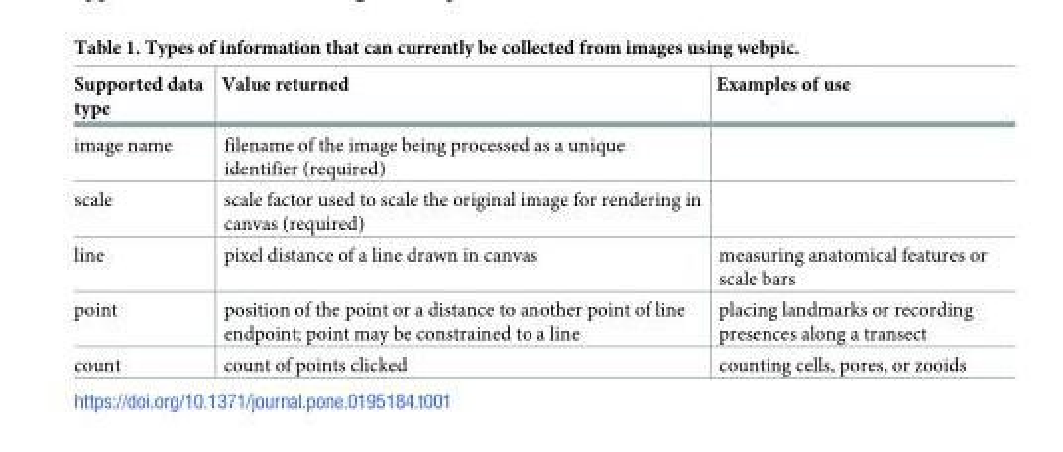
<table><thead><tr><td>Supported data type</td><td>Value returned</td><td>Examples of use</td></tr></thead><tbody><tr><td>image name</td><td>filename of the image being processed as a unique identifier (required)</td><td></td></tr><tr><td>scale</td><td>scale factor used to scale the original image for rendering in canvas (required)</td><td></td></tr><tr><td>line</td><td>pixel distance of a line drawn in canvas</td><td>measuring anatomical features or scale bars</td></tr><tr><td>point</td><td>position of the point or a distance to another point of line endpoint; point may be constrained to a line</td><td>placing landmarks or recording presences along a transect</td></tr><tr><td>count</td><td>count of points clicked</td><td>counting cells, pores, or zooids</td></tr></tbody></table>